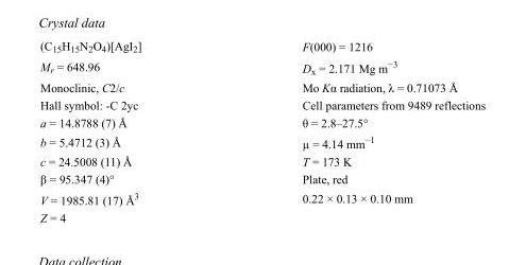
<table><tbody><tr><td>(C<sub>15</sub>H<sub>15</sub>N<sub>2</sub>O<sub>4</sub>)[AgI<sub>2</sub>]</td><td>F(000) = 1216</td></tr><tr><td>M<sub>r</sub> = 648.96</td><td>D<sub>x</sub> = 2.171 Mg m<sup>−3</sup></td></tr><tr><td>Monoclinic, C2/c</td><td>Mo Kα radiation, λ = 0.71073 Å</td></tr><tr><td>Hall symbol: -C 2yc</td><td>Cell parameters from 9489 reflections</td></tr><tr><td>a = 14.8788 (7) Å</td><td>θ = 2.8–27.5°</td></tr><tr><td>b = 5.4712 (3) Å</td><td>µ = 4.14 mm<sup>−1</sup></td></tr><tr><td>c = 24.5008 (11) Å</td><td>T = 173 K</td></tr><tr><td>β = 95.347 (4)°</td><td>Plate, red</td></tr><tr><td>V = 1985.81 (17) Å<sup>3</sup></td><td>0.22 × 0.13 × 0.10 mm</td></tr><tr><td>Z = 4</td><td></td></tr></tbody></table>